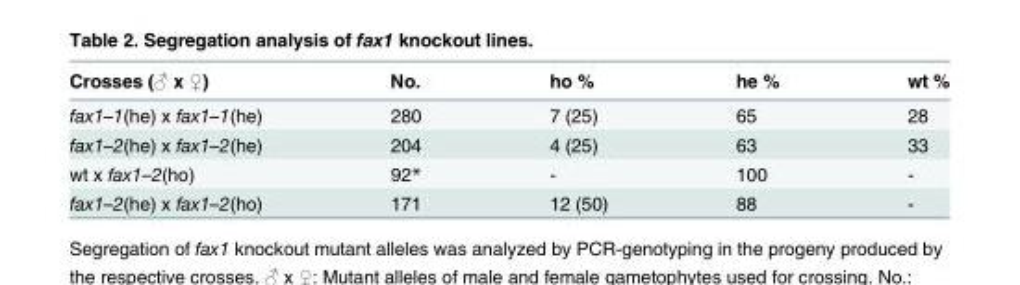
<table><thead><tr><td>Crosses (♂ x ♀)</td><td>No.</td><td>ho %</td><td>he %</td><td>wt %</td></tr></thead><tbody><tr><td>fax1–1(he) x fax1–1(he)</td><td>280</td><td>7 (25)</td><td>65</td><td>28</td></tr><tr><td>fax1–2(he) x fax1–2(he)</td><td>204</td><td>4 (25)</td><td>63</td><td>33</td></tr><tr><td>wt x fax1–2(ho)</td><td>92*</td><td>-</td><td>100</td><td>-</td></tr><tr><td>fax1–2(he) x fax1–2(ho)</td><td>171</td><td>12 (50)</td><td>88</td><td>-</td></tr></tbody></table>